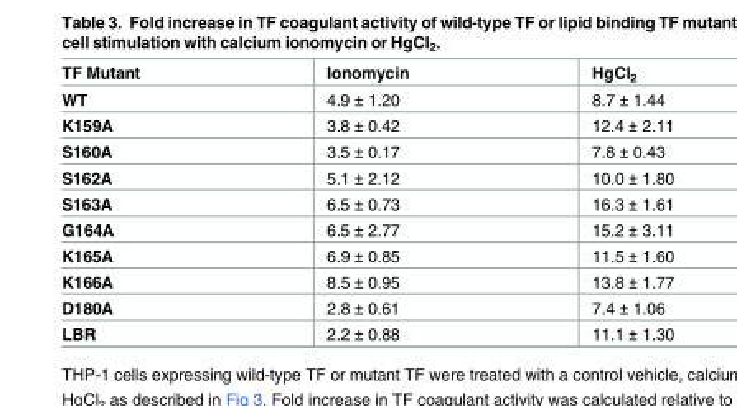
<table><thead><tr><td>TF Mutant</td><td>Ionomycin</td><td>HgCl<sub>2</sub></td></tr></thead><tbody><tr><td>WT</td><td>4.9 ± 1.20</td><td>8.7 ± 1.44</td></tr><tr><td>K159A</td><td>3.8 ± 0.42</td><td>12.4 ± 2.11</td></tr><tr><td>S160A</td><td>3.5 ± 0.17</td><td>7.8 ± 0.43</td></tr><tr><td>S162A</td><td>5.1 ± 2.12</td><td>10.0 ± 1.80</td></tr><tr><td>S163A</td><td>6.5 ± 0.73</td><td>16.3 ± 1.61</td></tr><tr><td>G164A</td><td>6.5 ± 2.77</td><td>15.2 ± 3.11</td></tr><tr><td>K165A</td><td>6.9 ± 0.85</td><td>11.5 ± 1.60</td></tr><tr><td>K166A</td><td>8.5 ± 0.95</td><td>13.8 ± 1.77</td></tr><tr><td>D180A</td><td>2.8 ± 0.61</td><td>7.4 ± 1.06</td></tr><tr><td>LBR</td><td>2.2 ± 0.88</td><td>11.1 ± 1.30</td></tr></tbody></table>